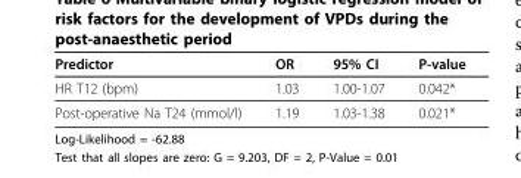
<table><thead><tr><td>Predictor</td><td>OR</td><td>95% CI</td><td>P-value</td></tr></thead><tbody><tr><td>HR T12 (bpm)</td><td>1.03</td><td>1.00-1.07</td><td>0.042*</td></tr><tr><td>Post-operative Na T24 (mmol/l)</td><td>1.19</td><td>1.03-1.38</td><td>0.021*</td></tr></tbody></table>